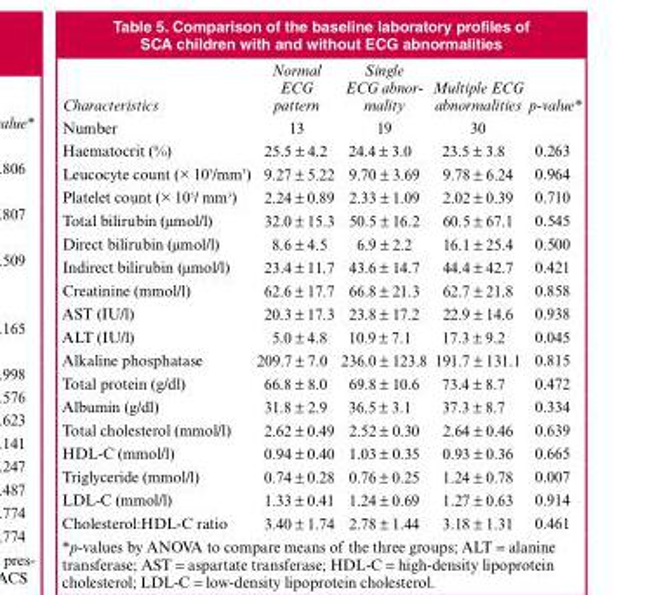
<table><thead><tr><td>Characteristics</td><td>Normal ECG pattern</td><td>Single ECG abnor- mality</td><td>Multiple ECG abnormalities</td><td>p-value*</td></tr></thead><tbody><tr><td>Number</td><td>13</td><td>19</td><td>30</td><td></td></tr><tr><td>Haematocrit (%)</td><td>25.5 ± 4.2</td><td>24.4 ± 3.0</td><td>23.5 ± 3.8</td><td>0.263</td></tr><tr><td>Leucocyte count (× 10<sup>3</sup>/mm<sup>3</sup>)</td><td>9.27 ± 5.22</td><td>9.70 ± 3.69</td><td>9.78 ± 6.24</td><td>0.964</td></tr><tr><td>Platelet count (× 10<sup>5</sup>/ mm<sup>3</sup>)</td><td>2.24 ± 0.89</td><td>2.33 ± 1.09</td><td>2.02 ± 0.39</td><td>0.710</td></tr><tr><td>Total bilirubin (µmol/l)</td><td>32.0 ± 15.3</td><td>50.5 ± 16.2</td><td>60.5 ± 67.1</td><td>0.545</td></tr><tr><td>Direct bilirubin (µmol/l)</td><td>8.6 ± 4.5</td><td>6.9 ± 2.2</td><td>16.1 ± 25.4</td><td>0.500</td></tr><tr><td>Indirect bilirubin (µmol/l)</td><td>23.4 ± 11.7</td><td>43.6 ± 14.7</td><td>44.4 ± 42.7</td><td>0.421</td></tr><tr><td>Creatinine (mmol/l)</td><td>62.6 ± 17.7</td><td>66.8 ± 21.3</td><td>62.7 ± 21.8</td><td>0.858</td></tr><tr><td>AST (IU/l)</td><td>20.3 ± 17.3</td><td>23.8 ± 17.2</td><td>22.9 ± 14.6</td><td>0.938</td></tr><tr><td>ALT (IU/l)</td><td>5.0 ± 4.8</td><td>10.9 ± 7.1</td><td>17.3 ± 9.2</td><td>0.045</td></tr><tr><td>Alkaline phosphatase</td><td>209.7 ± 7.0</td><td>236.0 ± 123.8</td><td>191.7 ± 131.1</td><td>0.815</td></tr><tr><td>Total protein (g/dl)</td><td>66.8 ± 8.0</td><td>69.8 ± 10.6</td><td>73.4 ± 8.7</td><td>0.472</td></tr><tr><td>Albumin (g/dl)</td><td>31.8 ± 2.9</td><td>36.5 ± 3.1</td><td>37.3 ± 8.7</td><td>0.334</td></tr><tr><td>Total cholesterol (mmol/l)</td><td>2.62 ± 0.49</td><td>2.52 ± 0.30</td><td>2.64 ± 0.46</td><td>0.639</td></tr><tr><td>HDL-C (mmol/l)</td><td>0.94 ± 0.40</td><td>1.03 ± 0.35</td><td>0.93 ± 0.36</td><td>0.665</td></tr><tr><td>Triglyceride (mmol/l)</td><td>0.74 ± 0.28</td><td>0.76 ± 0.25</td><td>1.24 ± 0.78</td><td>0.007</td></tr><tr><td>LDL-C (mmol/l)</td><td>1.33 ± 0.41</td><td>1.24 ± 0.69</td><td>1.27 ± 0.63</td><td>0.914</td></tr><tr><td>Cholesterol:HDL-C ratio</td><td>3.40 ± 1.74</td><td>2.78 ± 1.44</td><td>3.18 ± 1.31</td><td>0.461</td></tr></tbody></table>